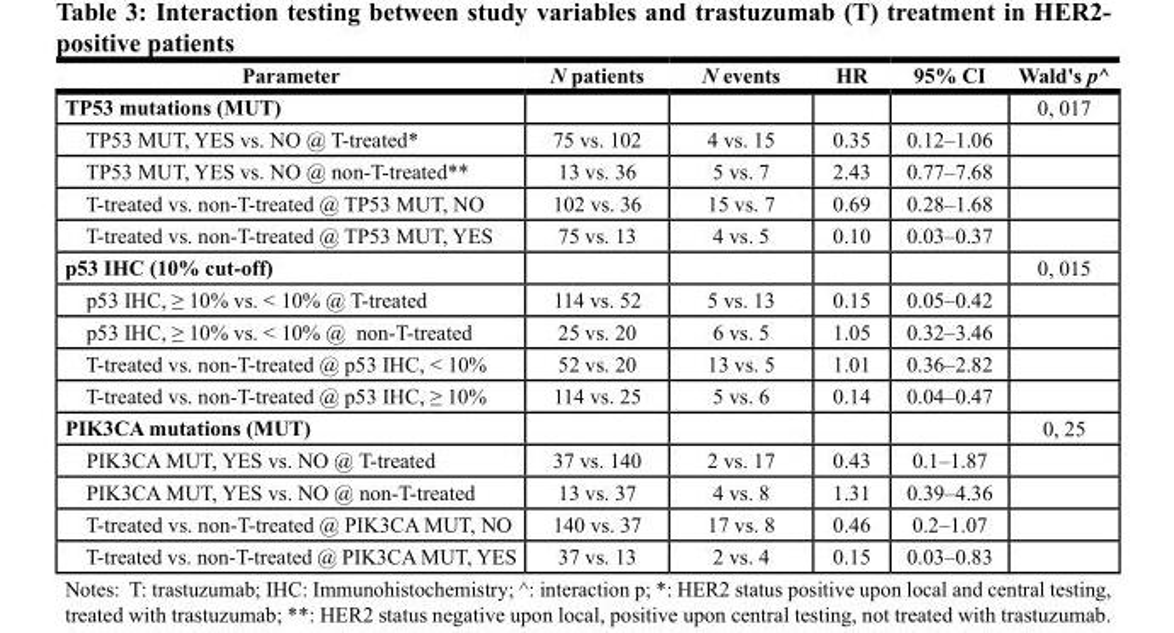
<table><thead><tr><td>Parameter</td><td>N patients</td><td>N events</td><td>HR</td><td>95% CI</td><td>Wald&#x27;s p^</td></tr></thead><tbody><tr><td>TP53 mutations (MUT)</td><td></td><td></td><td></td><td></td><td>0, 017</td></tr><tr><td>TP53 MUT, YES vs. NO @ T-treated*</td><td>75 vs. 102</td><td>4 vs. 15</td><td>0.35</td><td>0.12–1.06</td><td></td></tr><tr><td>TP53 MUT, YES vs. NO @ non-T-treated**</td><td>13 vs. 36</td><td>5 vs. 7</td><td>2.43</td><td>0.77–7.68</td><td></td></tr><tr><td>T-treated vs. non-T-treated @ TP53 MUT, NO</td><td>102 vs. 36</td><td>15 vs. 7</td><td>0.69</td><td>0.28–1.68</td><td></td></tr><tr><td>T-treated vs. non-T-treated @ TP53 MUT, YES</td><td>75 vs. 13</td><td>4 vs. 5</td><td>0.10</td><td>0.03–0.37</td><td></td></tr><tr><td>p53 IHC (10% cut-off)</td><td></td><td></td><td></td><td></td><td>0, 015</td></tr><tr><td>p53 IHC, ≥ 10% vs. &lt; 10% @ T-treated</td><td>114 vs. 52</td><td>5 vs. 13</td><td>0.15</td><td>0.05–0.42</td><td></td></tr><tr><td>p53 IHC, ≥ 10% vs. &lt; 10% @ non-T-treated</td><td>25 vs. 20</td><td>6 vs. 5</td><td>1.05</td><td>0.32–3.46</td><td></td></tr><tr><td>T-treated vs. non-T-treated @ p53 IHC, &lt; 10%</td><td>52 vs. 20</td><td>13 vs. 5</td><td>1.01</td><td>0.36–2.82</td><td></td></tr><tr><td>T-treated vs. non-T-treated @ p53 IHC, ≥ 10%</td><td>114 vs. 25</td><td>5 vs. 6</td><td>0.14</td><td>0.04–0.47</td><td></td></tr><tr><td>PIK3CA mutations (MUT)</td><td></td><td></td><td></td><td></td><td>0, 25</td></tr><tr><td>PIK3CA MUT, YES vs. NO @ T-treated</td><td>37 vs. 140</td><td>2 vs. 17</td><td>0.43</td><td>0.1–1.87</td><td></td></tr><tr><td>PIK3CA MUT, YES vs. NO @ non-T-treated</td><td>13 vs. 37</td><td>4 vs. 8</td><td>1.31</td><td>0.39–4.36</td><td></td></tr><tr><td>T-treated vs. non-T-treated @ PIK3CA MUT, NO</td><td>140 vs. 37</td><td>17 vs. 8</td><td>0.46</td><td>0.2–1.07</td><td></td></tr><tr><td>T-treated vs. non-T-treated @ PIK3CA MUT, YES</td><td>37 vs. 13</td><td>2 vs. 4</td><td>0.15</td><td>0.03–0.83</td><td></td></tr></tbody></table>